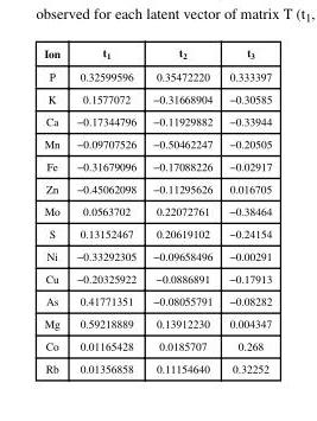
<table><thead><tr><td>Ion</td><td>t<sub>1</sub></td><td>t<sub>2</sub></td><td>t<sub>3</sub></td></tr></thead><tbody><tr><td>P</td><td>0.32599596</td><td>0.35472220</td><td>0.333397</td></tr><tr><td>K</td><td>0.1577072</td><td>−0.31668904</td><td>−0.30585</td></tr><tr><td>Ca</td><td>−0.17344796</td><td>−0.11929882</td><td>−0.33944</td></tr><tr><td>Mn</td><td>−0.09707526</td><td>−0.50462247</td><td>−0.20505</td></tr><tr><td>Fe</td><td>−0.31679096</td><td>−0.17088226</td><td>−0.02917</td></tr><tr><td>Zn</td><td>−0.45062098</td><td>−0.11295626</td><td>0.016705</td></tr><tr><td>Mo</td><td>0.0563702</td><td>0.22072761</td><td>−0.38464</td></tr><tr><td>S</td><td>0.13152467</td><td>0.20619102</td><td>−0.24154</td></tr><tr><td>Ni</td><td>−0.33292305</td><td>−0.09658496</td><td>−0.00291</td></tr><tr><td>Cu</td><td>−0.20325922</td><td>−0.0886891</td><td>−0.17913</td></tr><tr><td>As</td><td>0.41771351</td><td>−0.08055791</td><td>−0.08282</td></tr><tr><td>Mg</td><td>0.59218889</td><td>0.13912230</td><td>0.004347</td></tr><tr><td>Co</td><td>0.01165428</td><td>0.0185707</td><td>0.268</td></tr><tr><td>Rb</td><td>0.01356858</td><td>0.11154640</td><td>0.32252</td></tr></tbody></table>